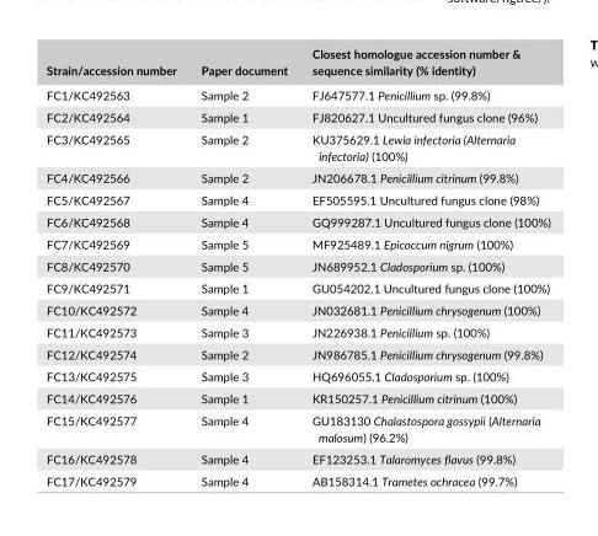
<table><thead><tr><td>Strain/accession number</td><td>Paper document</td><td>Closest homologue accession number &amp; sequence similarity (% identity)</td></tr></thead><tbody><tr><td>FC1/KC492563</td><td>Sample 2</td><td>FJ647577.1 Penicillium sp. (99.8%)</td></tr><tr><td>FC2/KC492564</td><td>Sample 1</td><td>FJ820627.1 Uncultured fungus clone (96%)</td></tr><tr><td>FC3/KC492565</td><td>Sample 2</td><td>KU375629.1 Lewia infectoria (Alternaria infectoria) (100%)</td></tr><tr><td>FC4/KC492566</td><td>Sample 2</td><td>JN206678.1 Penicillium citrinum (99.8%)</td></tr><tr><td>FC5/KC492567</td><td>Sample 4</td><td>EF505595.1 Uncultured fungus clone (98%)</td></tr><tr><td>FC6/KC492568</td><td>Sample 4</td><td>GQ999287.1 Uncultured fungus clone (100%)</td></tr><tr><td>FC7/KC492569</td><td>Sample 5</td><td>MF925489.1 Epicoccum nigrum (100%)</td></tr><tr><td>FC8/KC492570</td><td>Sample 5</td><td>JN689952.1 Cladosporium sp. (100%)</td></tr><tr><td>FC9/KC492571</td><td>Sample 1</td><td>GU054202.1 Uncultured fungus clone (100%)</td></tr><tr><td>FC10/KC492572</td><td>Sample 4</td><td>JN032681.1 Penicillium chrysogenum (100%)</td></tr><tr><td>FC11/KC492573</td><td>Sample 3</td><td>JN226938.1 Penicillium sp. (100%)</td></tr><tr><td>FC12/KC492574</td><td>Sample 2</td><td>JN986785.1 Penicillium chrysogenum (99.8%)</td></tr><tr><td>FC13/KC492575</td><td>Sample 3</td><td>HQ696055.1 Cladosporium sp. (100%)</td></tr><tr><td>FC14/KC492576</td><td>Sample 1</td><td>KR150257.1 Penicillium citrinum (100%)</td></tr><tr><td>FC15/KC492577</td><td>Sample 4</td><td>GU183130 Chalastospora gossypii (Alternaria malosum) (96.2%)</td></tr><tr><td>FC16/KC492578</td><td>Sample 4</td><td>EF123253.1 Talaromyces flavus (99.8%)</td></tr><tr><td>FC17/KC492579</td><td>Sample 4</td><td>AB158314.1 Trametes ochracea (99.7%)</td></tr></tbody></table>